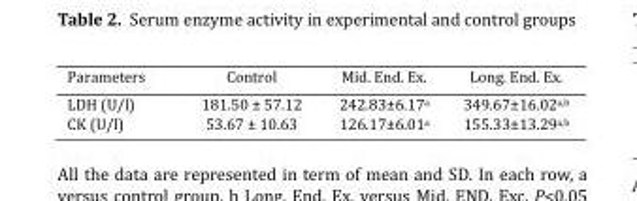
<table><thead><tr><td>Parameters</td><td>Control</td><td>Mid. End. Ex.</td><td>Long. End. Ex.</td></tr></thead><tbody><tr><td>LDH (U/l)</td><td>181.50 ± 57.12</td><td>242.83±6.17<sup>a</sup></td><td>349.67±16.02<sup>a</sup>,<sup>b</sup></td></tr><tr><td>CK (U/l)</td><td>53.67 ± 10.63</td><td>126.17±6.01<sup>a</sup></td><td>155.33±13.29<sup>a</sup>,<sup>b</sup></td></tr></tbody></table>